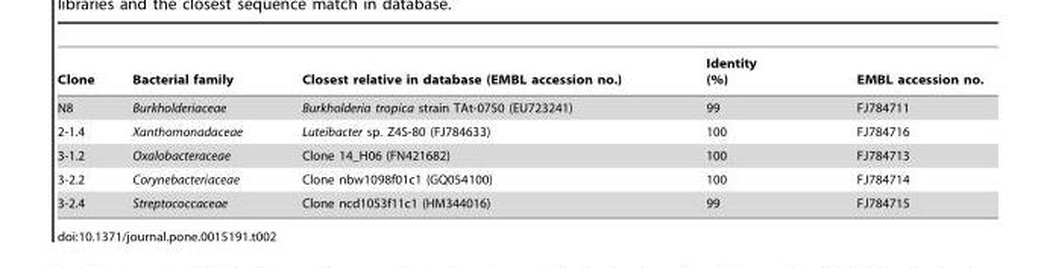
<table><thead><tr><td>Clone</td><td>Bacterial family</td><td>Closest relative in database (EMBL accession no.)</td><td>Identity (%)</td><td>EMBL accession no.</td></tr></thead><tbody><tr><td>N8</td><td>Burkholderiaceae</td><td>Burkholderia tropica strain TAt-0750 (EU723241)</td><td>99</td><td>FJ784711</td></tr><tr><td>2-1.4</td><td>Xanthomonadaceae</td><td>Luteibacter sp. Z4S-80 (FJ784633)</td><td>100</td><td>FJ784716</td></tr><tr><td>3-1.2</td><td>Oxalobacteraceae</td><td>Clone 14_H06 (FN421682)</td><td>100</td><td>FJ784713</td></tr><tr><td>3-2.2</td><td>Corynebacteriaceae</td><td>Clone nbw1098f01c1 (GQ054100)</td><td>100</td><td>FJ784714</td></tr><tr><td>3-2.4</td><td>Streptococcaceae</td><td>Clone ncd1053f11c1 (HM344016)</td><td>99</td><td>FJ784715</td></tr></tbody></table>